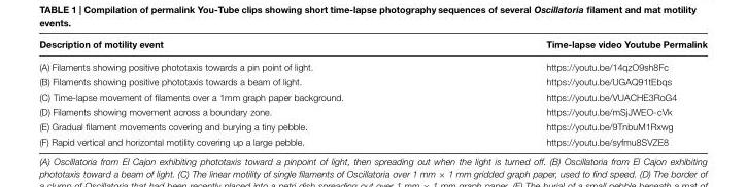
<table><thead><tr><td>Description of motility event</td><td>Time-lapse video Youtube Permalink</td></tr></thead><tbody><tr><td>(A) Filaments showing positive phototaxis towards a pin point of light.</td><td>https://youtu.be/14qzO9sh8Fc</td></tr><tr><td>(B) Filaments showing positive phototaxis towards a beam of light.</td><td>https://youtu.be/UGAQ91tEbqs</td></tr><tr><td>(C) Time-lapse movement of filaments over a 1mm graph paper background.</td><td>https://youtu.be/VUACHE3RoG4</td></tr><tr><td>(D) Filaments showing movement across a boundary zone.</td><td>https://youtu.be/mSjJWEO-cVk</td></tr><tr><td>(E) Gradual filament movements covering and burying a tiny pebble.</td><td>https://youtu.be/9TnbuM1Rxwg</td></tr><tr><td>(F) Rapid vertical and horizontal motility covering up a large pebble.</td><td>https://youtu.be/syfmu8SVZE8</td></tr></tbody></table>